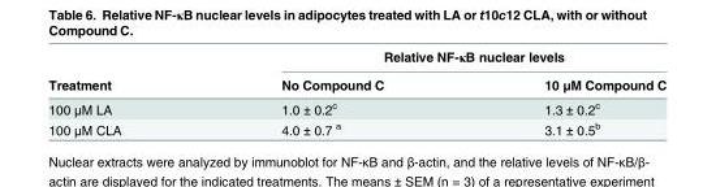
<table><thead><tr><td rowspan="2">Treatment</td><td colspan="2">Relative NF-κB nuclear levels</td></tr><tr><td>No Compound C</td><td>10 μM Compound C</td></tr></thead><tbody><tr><td>100 μM LA</td><td>1.0 ± 0.2<sup>c</sup></td><td>1.3 ± 0.2<sup>c</sup></td></tr><tr><td>100 μM CLA</td><td>4.0 ± 0.7 <sup>a</sup></td><td>3.1 ± 0.5<sup>b</sup></td></tr></tbody></table>